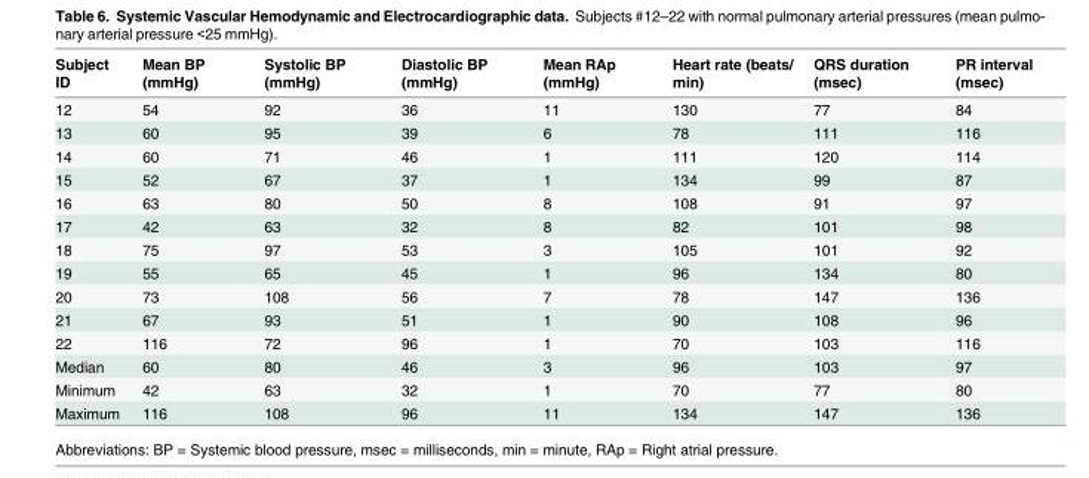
<table><thead><tr><td>Subject ID</td><td>Mean BP (mmHg)</td><td>Systolic BP (mmHg)</td><td>Diastolic BP (mmHg)</td><td>Mean RAp (mmHg)</td><td>Heart rate (beats/ min)</td><td>QRS duration (msec)</td><td>PR interval (msec)</td></tr></thead><tbody><tr><td>12</td><td>54</td><td>92</td><td>36</td><td>11</td><td>130</td><td>77</td><td>84</td></tr><tr><td>13</td><td>60</td><td>95</td><td>39</td><td>6</td><td>78</td><td>111</td><td>116</td></tr><tr><td>14</td><td>60</td><td>71</td><td>46</td><td>1</td><td>111</td><td>120</td><td>114</td></tr><tr><td>15</td><td>52</td><td>67</td><td>37</td><td>1</td><td>134</td><td>99</td><td>87</td></tr><tr><td>16</td><td>63</td><td>80</td><td>50</td><td>8</td><td>108</td><td>91</td><td>97</td></tr><tr><td>17</td><td>42</td><td>63</td><td>32</td><td>8</td><td>82</td><td>101</td><td>98</td></tr><tr><td>18</td><td>75</td><td>97</td><td>53</td><td>3</td><td>105</td><td>101</td><td>92</td></tr><tr><td>19</td><td>55</td><td>65</td><td>45</td><td>1</td><td>96</td><td>134</td><td>80</td></tr><tr><td>20</td><td>73</td><td>108</td><td>56</td><td>7</td><td>78</td><td>147</td><td>136</td></tr><tr><td>21</td><td>67</td><td>93</td><td>51</td><td>1</td><td>90</td><td>108</td><td>96</td></tr><tr><td>22</td><td>116</td><td>72</td><td>96</td><td>1</td><td>70</td><td>103</td><td>116</td></tr><tr><td>Median</td><td>60</td><td>80</td><td>46</td><td>3</td><td>96</td><td>103</td><td>97</td></tr><tr><td>Minimum</td><td>42</td><td>63</td><td>32</td><td>1</td><td>70</td><td>77</td><td>80</td></tr><tr><td>Maximum</td><td>116</td><td>108</td><td>96</td><td>11</td><td>134</td><td>147</td><td>136</td></tr></tbody></table>